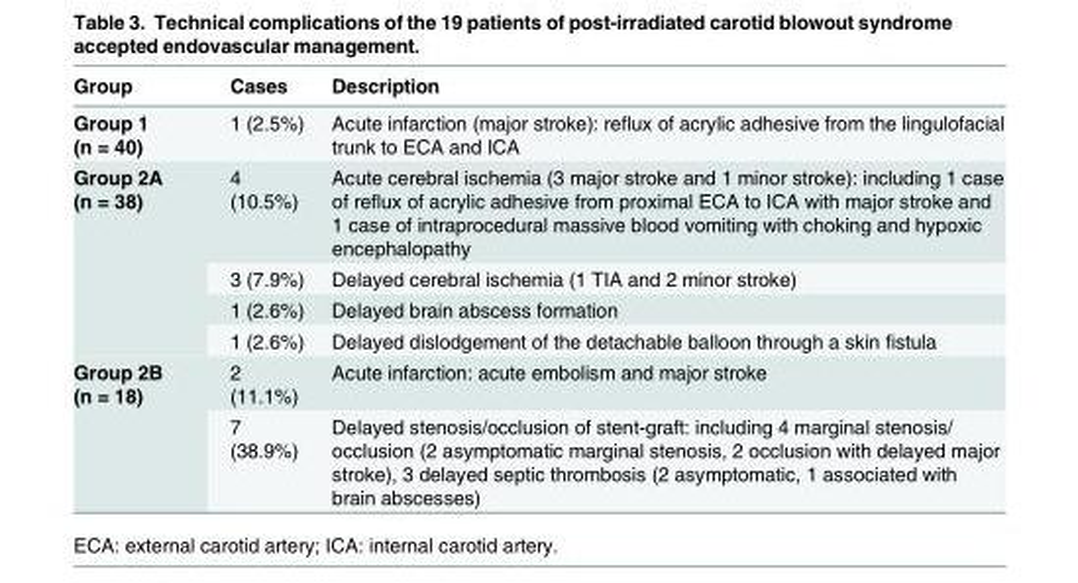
<table><thead><tr><td>Group</td><td>Cases</td><td>Description</td></tr></thead><tbody><tr><td>Group 1 (n = 40)</td><td>1 (2.5%)</td><td>Acute infarction (major stroke): reflux of acrylic adhesive from the lingulofacial trunk to ECA and ICA</td></tr><tr><td rowspan="4">Group 2A (n = 38)</td><td>4 (10.5%)</td><td>Acute cerebral ischemia (3 major stroke and 1 minor stroke): including 1 case of reflux of acrylic adhesive from proximal ECA to ICA with major stroke and 1 case of intraprocedural massive blood vomiting with choking and hypoxic encephalopathy</td></tr><tr><td>3 (7.9%)</td><td>Delayed cerebral ischemia (1 TIA and 2 minor stroke)</td></tr><tr><td>1 (2.6%)</td><td>Delayed brain abscess formation</td></tr><tr><td>1 (2.6%)</td><td>Delayed dislodgement of the detachable balloon through a skin fistula</td></tr><tr><td rowspan="2">Group 2B (n = 18)</td><td>2 (11.1%)</td><td>Acute infarction: acute embolism and major stroke</td></tr><tr><td>7 (38.9%)</td><td>Delayed stenosis/occlusion of stent-graft: including 4 marginal stenosis/ occlusion (2 asymptomatic marginal stenosis, 2 occlusion with delayed major stroke), 3 delayed septic thrombosis (2 asymptomatic, 1 associated with brain abscesses)</td></tr></tbody></table>